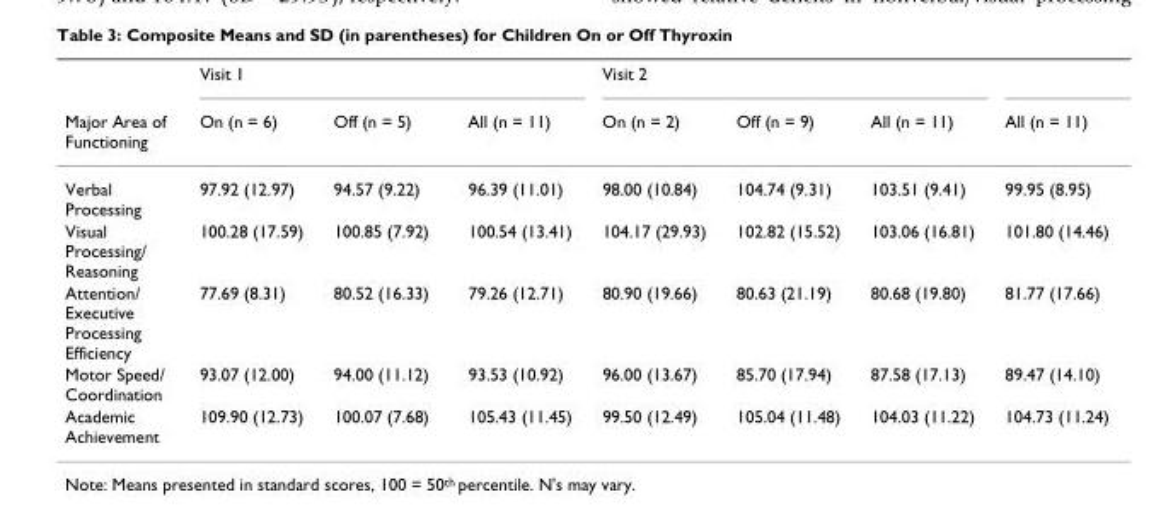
<table><thead><tr><td rowspan="2">Major Area of Functioning</td><td rowspan="2">Visit 1 On (n = 6)</td><td rowspan="2">Off (n = 5)</td><td rowspan="2">All (n = 11)</td><td rowspan="2">Visit 2 On (n = 2)</td><td rowspan="2">Off (n = 9)</td><td rowspan="2">All (n = 11)</td><td rowspan="2">All (n = 11)</td></tr><tr></tr></thead><tbody><tr><td>Verbal Processing</td><td>97.92 (12.97)</td><td>94.57 (9.22)</td><td>96.39 (11.01)</td><td>98.00 (10.84)</td><td>104.74 (9.31)</td><td>103.51 (9.41)</td><td>99.95 (8.95)</td></tr><tr><td>Visual Processing/ Reasoning</td><td>100.28 (17.59)</td><td>100.85 (7.92)</td><td>100.54 (13.41)</td><td>104.17 (29.93)</td><td>102.82 (15.52)</td><td>103.06 (16.81)</td><td>101.80 (14.46)</td></tr><tr><td>Attention/ Executive Processing Efficiency</td><td>77.69 (8.31)</td><td>80.52 (16.33)</td><td>79.26 (12.71)</td><td>80.90 (19.66)</td><td>80.63 (21.19)</td><td>80.68 (19.80)</td><td>81.77 (17.66)</td></tr><tr><td>Motor Speed/ Coordination</td><td>93.07 (12.00)</td><td>94.00 (11.12)</td><td>93.53 (10.92)</td><td>96.00 (13.67)</td><td>85.70 (17.94)</td><td>87.58 (17.13)</td><td>89.47 (14.10)</td></tr><tr><td>Academic Achievement</td><td>109.90 (12.73)</td><td>100.07 (7.68)</td><td>105.43 (11.45)</td><td>99.50 (12.49)</td><td>105.04 (11.48)</td><td>104.03 (11.22)</td><td>104.73 (11.24)</td></tr></tbody></table>